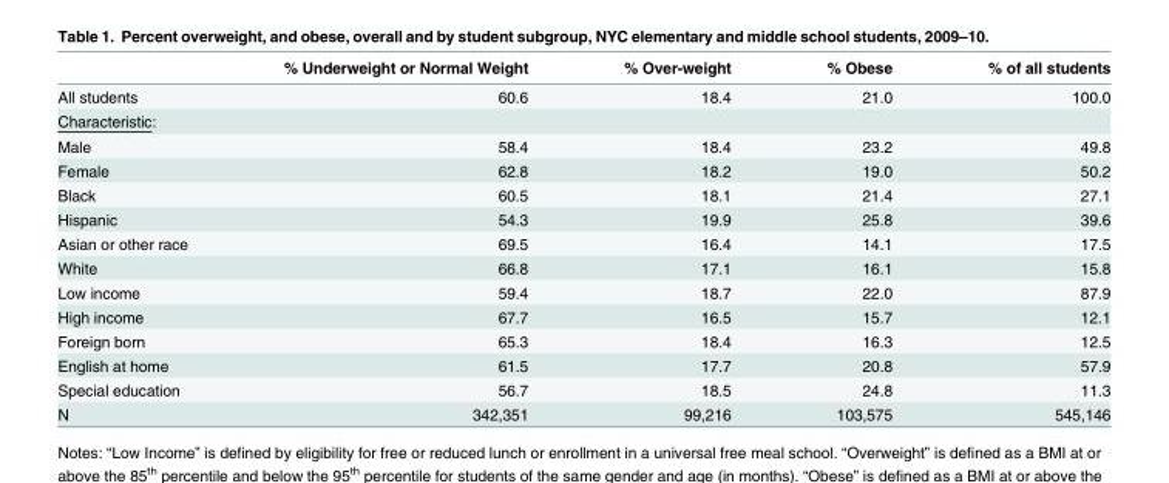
<table><thead><tr><td></td><td>% Underweight or Normal Weight</td><td>% Over-weight</td><td>% Obese</td><td>% of all students</td></tr></thead><tbody><tr><td>All students</td><td>60.6</td><td>18.4</td><td>21.0</td><td>100.0</td></tr><tr><td colspan="5">Characteristic:</td></tr><tr><td>Male</td><td>58.4</td><td>18.4</td><td>23.2</td><td>49.8</td></tr><tr><td>Female</td><td>62.8</td><td>18.2</td><td>19.0</td><td>50.2</td></tr><tr><td>Black</td><td>60.5</td><td>18.1</td><td>21.4</td><td>27.1</td></tr><tr><td>Hispanic</td><td>54.3</td><td>19.9</td><td>25.8</td><td>39.6</td></tr><tr><td>Asian or other race</td><td>69.5</td><td>16.4</td><td>14.1</td><td>17.5</td></tr><tr><td>White</td><td>66.8</td><td>17.1</td><td>16.1</td><td>15.8</td></tr><tr><td>Low income</td><td>59.4</td><td>18.7</td><td>22.0</td><td>87.9</td></tr><tr><td>High income</td><td>67.7</td><td>16.5</td><td>15.7</td><td>12.1</td></tr><tr><td>Foreign born</td><td>65.3</td><td>18.4</td><td>16.3</td><td>12.5</td></tr><tr><td>English at home</td><td>61.5</td><td>17.7</td><td>20.8</td><td>57.9</td></tr><tr><td>Special education</td><td>56.7</td><td>18.5</td><td>24.8</td><td>11.3</td></tr><tr><td>N</td><td>342,351</td><td>99,216</td><td>103,575</td><td>545,146</td></tr></tbody></table>